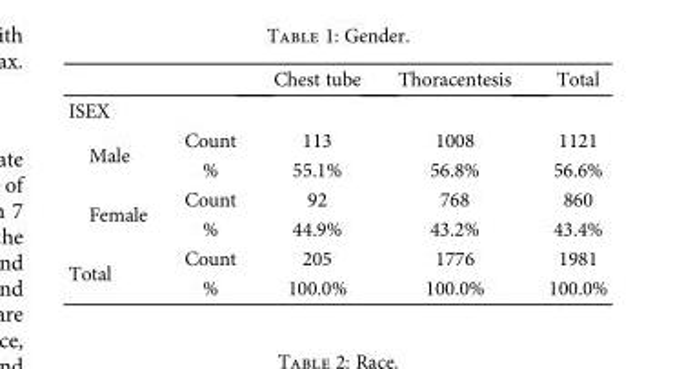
<table><thead><tr><td></td><td></td><td>Chest tube</td><td>Thoracentesis</td><td>Total</td></tr></thead><tbody><tr><td colspan="5">ISEX</td></tr><tr><td rowspan="2">Male</td><td>Count</td><td>113</td><td>1008</td><td>1121</td></tr><tr><td>%</td><td>55.1%</td><td>56.8%</td><td>56.6%</td></tr><tr><td rowspan="2">Female</td><td>Count</td><td>92</td><td>768</td><td>860</td></tr><tr><td>%</td><td>44.9%</td><td>43.2%</td><td>43.4%</td></tr><tr><td rowspan="2">Total</td><td>Count</td><td>205</td><td>1776</td><td>1981</td></tr><tr><td>%</td><td>100.0%</td><td>100.0%</td><td>100.0%</td></tr></tbody></table>